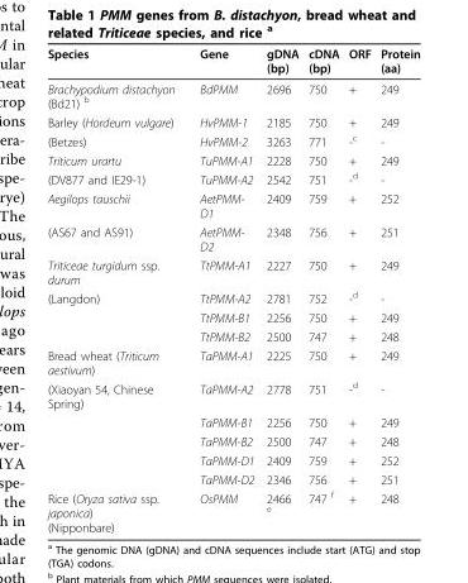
<table><thead><tr><td>Species</td><td>Gene</td><td>gDNA (bp)</td><td>cDNA (bp)</td><td>ORF</td><td>Protein (aa)</td></tr></thead><tbody><tr><td>Brachypodium distachyon (Bd21) <sup>b</sup></td><td>BdPMM</td><td>2696</td><td>750</td><td>+</td><td>249</td></tr><tr><td>Barley (Hordeum vulgare)</td><td>HvPMM-1</td><td>2185</td><td>750</td><td>+</td><td>249</td></tr><tr><td>(Betzes)</td><td>HvPMM-2</td><td>3263</td><td>771</td><td>-<sup>c</sup></td><td>-</td></tr><tr><td>Triticum urartu</td><td>TuPMM-A1</td><td>2228</td><td>750</td><td>+</td><td>249</td></tr><tr><td>(DV877 and IE29-1)</td><td>TuPMM-A2</td><td>2542</td><td>751</td><td>-<sup>d</sup></td><td>-</td></tr><tr><td>Aegilops tauschii</td><td>AetPMM- D1</td><td>2409</td><td>759</td><td>+</td><td>252</td></tr><tr><td>(AS67 and AS91)</td><td>AetPMM- D2</td><td>2348</td><td>756</td><td>+</td><td>251</td></tr><tr><td>Triticeae turgidum ssp. durum</td><td>TtPMM-A1</td><td>2227</td><td>750</td><td>+</td><td>249</td></tr><tr><td rowspan="3">(Langdon)</td><td>TtPMM-A2</td><td>2781</td><td>752</td><td>-<sup>d</sup></td><td>-</td></tr><tr><td>TtPMM-B1</td><td>2256</td><td>750</td><td>+</td><td>249</td></tr><tr><td>TtPMM-B2</td><td>2500</td><td>747</td><td>+</td><td>248</td></tr><tr><td>Bread wheat (Triticum aestivum)</td><td>TaPMM-A1</td><td>2225</td><td>750</td><td>+</td><td>249</td></tr><tr><td rowspan="5">(Xiaoyan 54, Chinese Spring)</td><td>TaPMM-A2</td><td>2778</td><td>751</td><td>-<sup>d</sup></td><td>-</td></tr><tr><td>TaPMM-B1</td><td>2256</td><td>750</td><td>+</td><td>249</td></tr><tr><td>TaPMM-B2</td><td>2500</td><td>747</td><td>+</td><td>248</td></tr><tr><td>TaPMM-D1</td><td>2409</td><td>759</td><td>+</td><td>252</td></tr><tr><td>TaPMM-D2</td><td>2346</td><td>756</td><td>+</td><td>251</td></tr><tr><td>Rice (Oryza sativa ssp. japonica) (Nipponbare)</td><td>OsPMM</td><td>2466 <sup>e</sup></td><td>747 <sup>f</sup></td><td>+</td><td>248</td></tr></tbody></table>